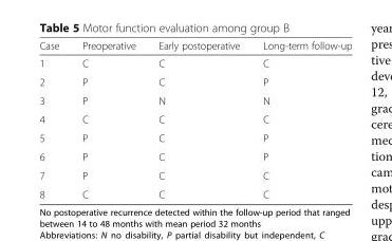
<table><thead><tr><td>Case</td><td>Preoperative</td><td>Early postoperative</td><td>Long-term follow-up</td></tr></thead><tbody><tr><td>1</td><td>C</td><td>C</td><td>C</td></tr><tr><td>2</td><td>P</td><td>C</td><td>P</td></tr><tr><td>3</td><td>P</td><td>N</td><td>N</td></tr><tr><td>4</td><td>C</td><td>C</td><td>C</td></tr><tr><td>5</td><td>P</td><td>C</td><td>P</td></tr><tr><td>6</td><td>P</td><td>C</td><td>P</td></tr><tr><td>7</td><td>P</td><td>C</td><td>C</td></tr><tr><td>8</td><td>C</td><td>C</td><td>C</td></tr></tbody></table>